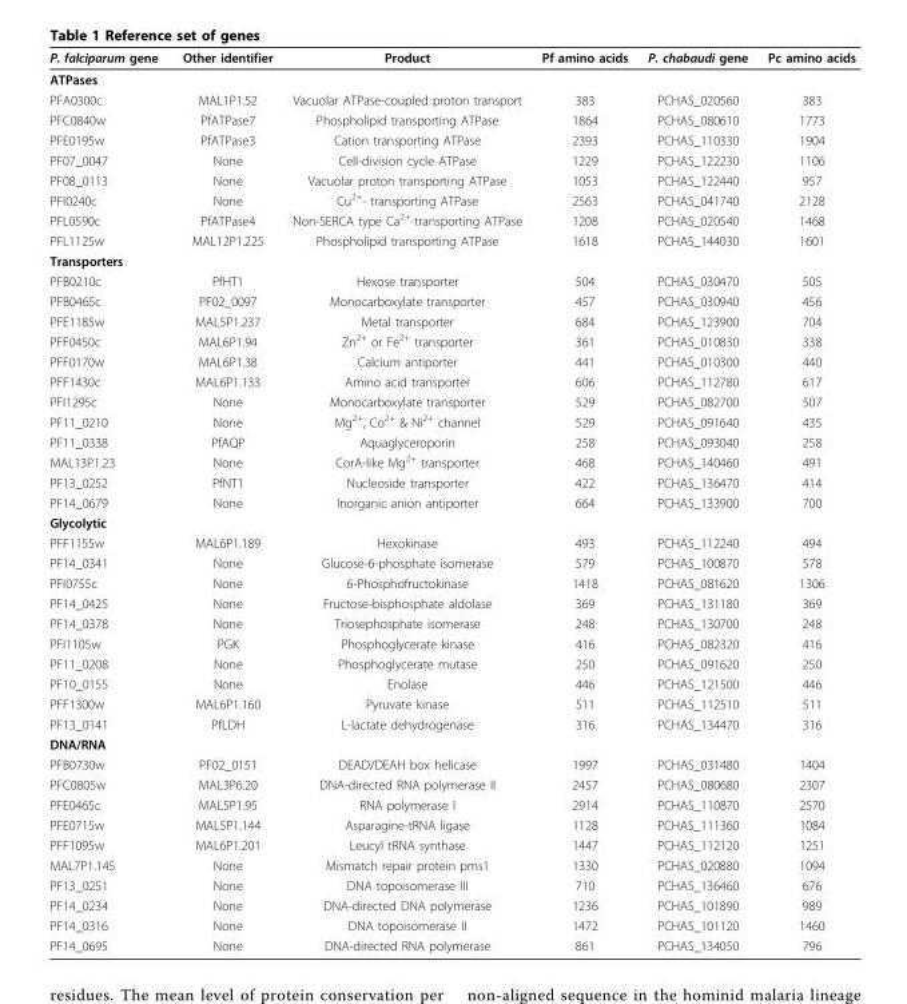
<table><thead><tr><td>P. falciparum gene</td><td>Other identifier</td><td>Product</td><td>Pf amino acids</td><td>P. chabaudi gene</td><td>Pc amino acids</td></tr></thead><tbody><tr><td colspan="6">ATPases</td></tr><tr><td>PFA0300c</td><td>MAL1P1.52</td><td>Vacuolar ATPase-coupled proton transport</td><td>383</td><td>PCHAS_020560</td><td>383</td></tr><tr><td>PFC0840w</td><td>PfATPase7</td><td>Phospholipid transporting ATPase</td><td>1864</td><td>PCHAS_080610</td><td>1773</td></tr><tr><td>PFE0195w</td><td>PfATPase3</td><td>Cation transporting ATPase</td><td>2393</td><td>PCHAS_110330</td><td>1904</td></tr><tr><td>PF07_0047</td><td>None</td><td>Cell-division cycle ATPase</td><td>1229</td><td>PCHAS_122230</td><td>1106</td></tr><tr><td>PF08_0113</td><td>None</td><td>Vacuolar proton transporting ATPase</td><td>1053</td><td>PCHAS_122440</td><td>957</td></tr><tr><td>PFI0240c</td><td>None</td><td>Cu<sup>2+</sup>- transporting ATPase</td><td>2563</td><td>PCHAS_041740</td><td>2128</td></tr><tr><td>PFL0590c</td><td>PfATPase4</td><td>Non-SERCA type Ca<sup>2+</sup>-transporting ATPase</td><td>1208</td><td>PCHAS_020540</td><td>1468</td></tr><tr><td>PFL1125w</td><td>MAL12P1.225</td><td>Phospholipid transporting ATPase</td><td>1618</td><td>PCHAS_144030</td><td>1601</td></tr><tr><td colspan="6">Transporters</td></tr><tr><td>PFB0210c</td><td>PfHT1</td><td>Hexose transporter</td><td>504</td><td>PCHAS_030470</td><td>505</td></tr><tr><td>PFB0465c</td><td>PF02_0097</td><td>Monocarboxylate transporter</td><td>457</td><td>PCHAS_030940</td><td>456</td></tr><tr><td>PFE1185w</td><td>MAL5P1.237</td><td>Metal transporter</td><td>684</td><td>PCHAS_123900</td><td>704</td></tr><tr><td>PFF0450c</td><td>MAL6P1.94</td><td>Zn<sup>2+</sup> or Fe<sup>2+</sup> transporter</td><td>361</td><td>PCHAS_010830</td><td>338</td></tr><tr><td>PFF0170w</td><td>MAL6P1.38</td><td>Calcium antiporter</td><td>441</td><td>PCHAS_010300</td><td>440</td></tr><tr><td>PFF1430c</td><td>MAL6P1.133</td><td>Amino acid transporter</td><td>606</td><td>PCHAS_112780</td><td>617</td></tr><tr><td>PFI1295c</td><td>None</td><td>Monocarboxylate transporter</td><td>529</td><td>PCHAS_082700</td><td>507</td></tr><tr><td>PF11_0210</td><td>None</td><td>Mg<sup>2+</sup>, Co<sup>2+</sup> &amp; Ni<sup>2+</sup> channel</td><td>529</td><td>PCHAS_091640</td><td>435</td></tr><tr><td>PF11_0338</td><td>PfAQP</td><td>Aquaglyceroporin</td><td>258</td><td>PCHAS_093040</td><td>258</td></tr><tr><td>MAL13P1.23</td><td>None</td><td>CorA-like Mg<sup>2+</sup> transporter</td><td>468</td><td>PCHAS_140460</td><td>491</td></tr><tr><td>PF13_0252</td><td>PfNT1</td><td>Nucleoside transporter</td><td>422</td><td>PCHAS_136470</td><td>414</td></tr><tr><td>PF14_0679</td><td>None</td><td>Inorganic anion antiporter</td><td>664</td><td>PCHAS_133900</td><td>700</td></tr><tr><td colspan="6">Glycolytic</td></tr><tr><td>PFF1155w</td><td>MAL6P1.189</td><td>Hexokinase</td><td>493</td><td>PCHAS_112240</td><td>494</td></tr><tr><td>PF14_0341</td><td>None</td><td>Glucose-6-phosphate isomerase</td><td>579</td><td>PCHAS_100870</td><td>578</td></tr><tr><td>PFI0755c</td><td>None</td><td>6-Phosphofructokinase</td><td>1418</td><td>PCHAS_081620</td><td>1306</td></tr><tr><td>PF14_0425</td><td>None</td><td>Fructose-bisphosphate aldolase</td><td>369</td><td>PCHAS_131180</td><td>369</td></tr><tr><td>PF14_0378</td><td>None</td><td>Triosephosphate isomerase</td><td>248</td><td>PCHAS_130700</td><td>248</td></tr><tr><td>PFI1105w</td><td>PGK</td><td>Phosphoglycerate kinase</td><td>416</td><td>PCHAS_082320</td><td>416</td></tr><tr><td>PF11_0208</td><td>None</td><td>Phosphoglycerate mutase</td><td>250</td><td>PCHAS_091620</td><td>250</td></tr><tr><td>PF10_0155</td><td>None</td><td>Enolase</td><td>446</td><td>PCHAS_121500</td><td>446</td></tr><tr><td>PFF1300w</td><td>MAL6P1.160</td><td>Pyruvate kinase</td><td>511</td><td>PCHAS_112510</td><td>511</td></tr><tr><td>PF13_0141</td><td>PfLDH</td><td>L-lactate dehydrogenase</td><td>316</td><td>PCHAS_134470</td><td>316</td></tr><tr><td colspan="6">DNA/RNA</td></tr><tr><td>PFB0730w</td><td>PF02_0151</td><td>DEAD/DEAH box helicase</td><td>1997</td><td>PCHAS_031480</td><td>1404</td></tr><tr><td>PFC0805w</td><td>MAL3P6.20</td><td>DNA-directed RNA polymerase II</td><td>2457</td><td>PCHAS_080680</td><td>2307</td></tr><tr><td>PFE0465c</td><td>MAL5P1.95</td><td>RNA polymerase I</td><td>2914</td><td>PCHAS_110870</td><td>2570</td></tr><tr><td>PFE0715w</td><td>MAL5P1.144</td><td>Asparagine-tRNA ligase</td><td>1128</td><td>PCHAS_111360</td><td>1084</td></tr><tr><td>PFF1095w</td><td>MAL6P1.201</td><td>Leucyl tRNA synthase</td><td>1447</td><td>PCHAS_112120</td><td>1251</td></tr><tr><td>MAL7P1.145</td><td>None</td><td>Mismatch repair protein pms1</td><td>1330</td><td>PCHAS_020880</td><td>1094</td></tr><tr><td>PF13_0251</td><td>None</td><td>DNA topoisomerase III</td><td>710</td><td>PCHAS_136460</td><td>676</td></tr><tr><td>PF14_0234</td><td>None</td><td>DNA-directed DNA polymerase</td><td>1236</td><td>PCHAS_101890</td><td>989</td></tr><tr><td>PF14_0316</td><td>None</td><td>DNA topoisomerase II</td><td>1472</td><td>PCHAS_101120</td><td>1460</td></tr><tr><td>PF14_0695</td><td>None</td><td>DNA-directed RNA polymerase</td><td>861</td><td>PCHAS_134050</td><td>796</td></tr></tbody></table>